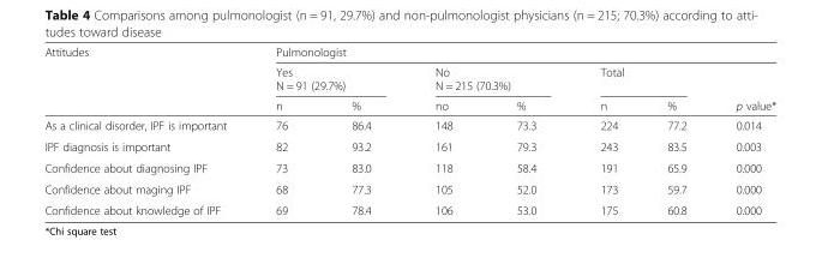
<table><thead><tr><td rowspan="3">Attitudes</td><td colspan="7">Pulmonologist</td></tr><tr><td colspan="2">Yes N = 91 (29.7%)</td><td colspan="2">No N = 215 (70.3%)</td><td colspan="2">Total</td><td rowspan="2">p value*</td></tr><tr><td>n</td><td>%</td><td>no</td><td>%</td><td>n</td><td>%</td></tr></thead><tbody><tr><td>As a clinical disorder, IPF is important</td><td>76</td><td>86.4</td><td>148</td><td>73.3</td><td>224</td><td>77.2</td><td>0.014</td></tr><tr><td>IPF diagnosis is important</td><td>82</td><td>93.2</td><td>161</td><td>79.3</td><td>243</td><td>83.5</td><td>0.003</td></tr><tr><td>Confidence about diagnosing IPF</td><td>73</td><td>83.0</td><td>118</td><td>58.4</td><td>191</td><td>65.9</td><td>0.000</td></tr><tr><td>Confidence about maging IPF</td><td>68</td><td>77.3</td><td>105</td><td>52.0</td><td>173</td><td>59.7</td><td>0.000</td></tr><tr><td>Confidence about knowledge of IPF</td><td>69</td><td>78.4</td><td>106</td><td>53.0</td><td>175</td><td>60.8</td><td>0.000</td></tr></tbody></table>